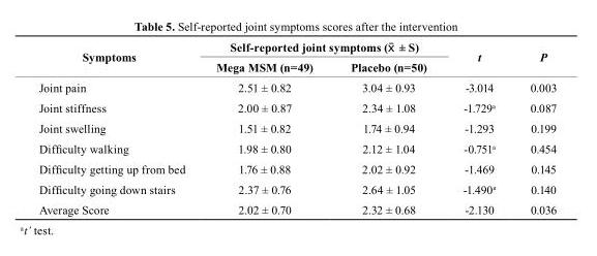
<table><thead><tr><td rowspan="2">symptoms</td><td colspan="2">self-reported joint symptoms (X ± S)</td><td rowspan="2">t</td><td rowspan="2">P</td></tr><tr><td>Mega MSM (n=49)</td><td>Placebo (n=50)</td></tr></thead><tbody><tr><td>Joint pain</td><td>2.51 ± 0.82</td><td>3.04 ± 0.93</td><td>-3.014</td><td>0.003</td></tr><tr><td>Joint stiffness</td><td>2.00 ± 0.87</td><td>2.34 ± 1.08</td><td>-1.729<sup>a</sup></td><td>0.087</td></tr><tr><td>Joint swelling</td><td>1.51 ± 0.82</td><td>1.74 ± 0.94</td><td>-1.293</td><td>0.199</td></tr><tr><td>Difficulty walking</td><td>1.98 ± 0.80</td><td>2.12 ± 1.04</td><td>-0.751<sup>a</sup></td><td>0.454</td></tr><tr><td>Difficulty getting up from bed</td><td>1.76 ± 0.88</td><td>2.02 ± 0.92</td><td>-1.469</td><td>0.145</td></tr><tr><td>Difficulty going down stairs</td><td>2.37 ± 0.76</td><td>2.64 ± 1.05</td><td>-1.490<sup>a</sup></td><td>0.140</td></tr><tr><td>Average Score</td><td>2.02 ± 0.70</td><td>2.32 ± 0.68</td><td>-2.130</td><td>0.036</td></tr></tbody></table>